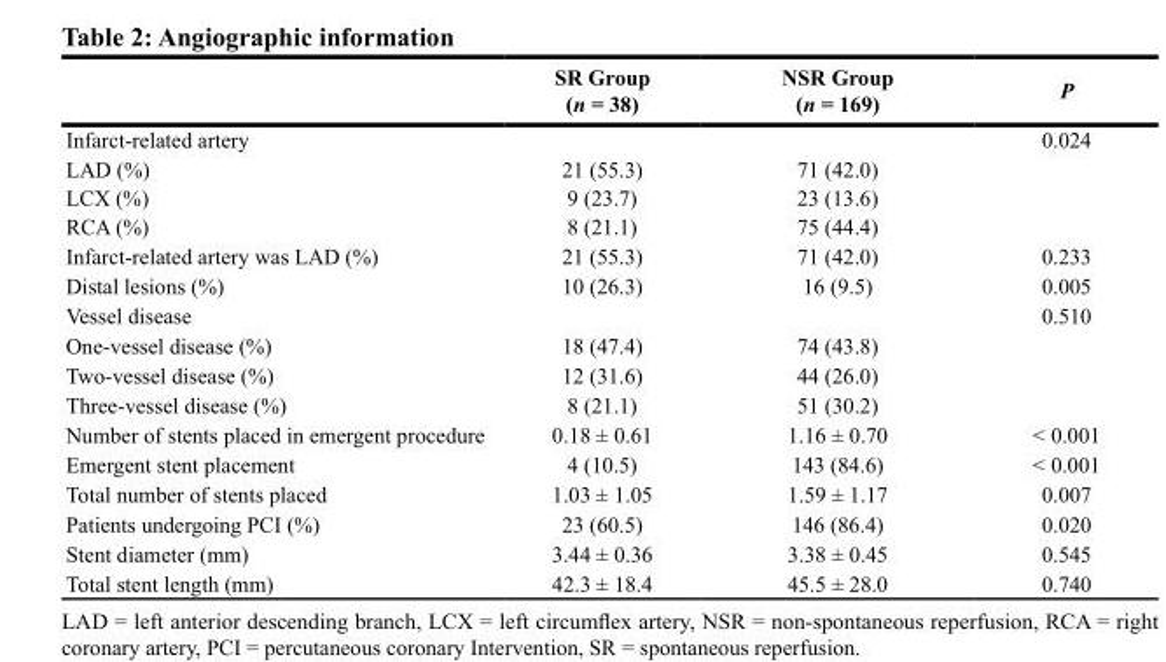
<table><thead><tr><td></td><td>SR Group (n = 38)</td><td>NSR Group (n = 169)</td><td>P</td></tr></thead><tbody><tr><td>Infarct-related artery</td><td></td><td></td><td>0.024</td></tr><tr><td>LAD (%)</td><td>21 (55.3)</td><td>71 (42.0)</td><td></td></tr><tr><td>LCX (%)</td><td>9 (23.7)</td><td>23 (13.6)</td><td></td></tr><tr><td>RCA (%)</td><td>8 (21.1)</td><td>75 (44.4)</td><td></td></tr><tr><td>Infarct-related artery was LAD (%)</td><td>21 (55.3)</td><td>71 (42.0)</td><td>0.233</td></tr><tr><td>Distal lesions (%)</td><td>10 (26.3)</td><td>16 (9.5)</td><td>0.005</td></tr><tr><td>Vessel disease</td><td></td><td></td><td>0.510</td></tr><tr><td>One-vessel disease (%)</td><td>18 (47.4)</td><td>74 (43.8)</td><td></td></tr><tr><td>Two-vessel disease (%)</td><td>12 (31.6)</td><td>44 (26.0)</td><td></td></tr><tr><td>Three-vessel disease (%)</td><td>8 (21.1)</td><td>51 (30.2)</td><td></td></tr><tr><td>Number of stents placed in emergent procedure</td><td>0.18 ± 0.61</td><td>1.16 ± 0.70</td><td>&lt; 0.001</td></tr><tr><td>Emergent stent placement</td><td>4 (10.5)</td><td>143 (84.6)</td><td>&lt; 0.001</td></tr><tr><td>Total number of stents placed</td><td>1.03 ± 1.05</td><td>1.59 ± 1.17</td><td>0.007</td></tr><tr><td>Patients undergoing PCI (%)</td><td>23 (60.5)</td><td>146 (86.4)</td><td>0.020</td></tr><tr><td>Stent diameter (mm)</td><td>3.44 ± 0.36</td><td>3.38 ± 0.45</td><td>0.545</td></tr><tr><td>Total stent length (mm)</td><td>42.3 ± 18.4</td><td>45.5 ± 28.0</td><td>0.740</td></tr></tbody></table>